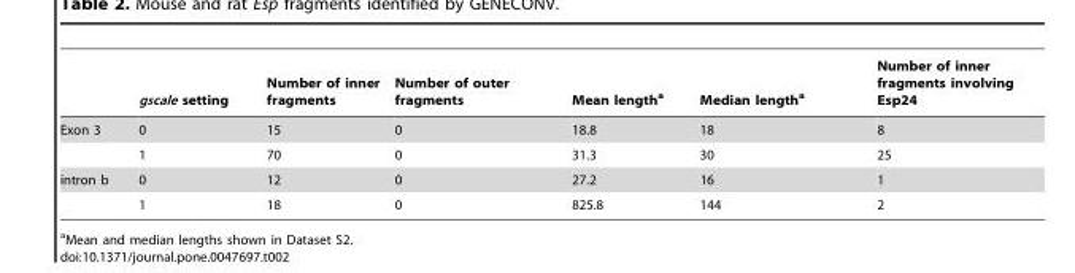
<table><thead><tr><td></td><td>gscale setting</td><td>Number of inner fragments</td><td>Number of outer fragments</td><td>Mean length<sup>a</sup></td><td>Median length<sup>a</sup></td><td>Number of inner fragments involving Esp24</td></tr></thead><tbody><tr><td rowspan="2">Exon 3</td><td>0</td><td>15</td><td>0</td><td>18.8</td><td>18</td><td>8</td></tr><tr><td>1</td><td>70</td><td>0</td><td>31.3</td><td>30</td><td>25</td></tr><tr><td rowspan="2">intron b</td><td>0</td><td>12</td><td>0</td><td>27.2</td><td>16</td><td>1</td></tr><tr><td>1</td><td>18</td><td>0</td><td>825.8</td><td>144</td><td>2</td></tr></tbody></table>